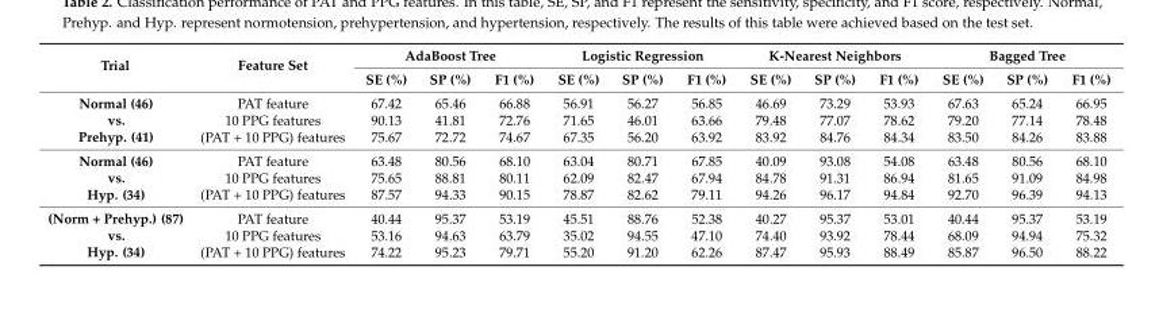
<table><thead><tr><td rowspan="2">Trial</td><td rowspan="2">Feature Set</td><td colspan="3">AdaBoost Tree</td><td colspan="3">Logistic Regression</td><td colspan="3">K-Nearest Neighbors</td><td colspan="3">Bagged Tree</td></tr><tr><td>SE (%)</td><td>SP (%)</td><td>F1 (%)</td><td>SE (%)</td><td>SP (%)</td><td>F1 (%)</td><td>SE (%)</td><td>SP (%)</td><td>F1 (%)</td><td>SE (%)</td><td>SP (%)</td><td>F1 (%)</td></tr></thead><tbody><tr><td rowspan="3">Normal (46) vs. Prehyp. (41)</td><td>PAT feature</td><td>67.42</td><td>65.46</td><td>66.88</td><td>56.91</td><td>56.27</td><td>56.85</td><td>46.69</td><td>73.29</td><td>53.93</td><td>67.63</td><td>65.24</td><td>66.95</td></tr><tr><td>10 PPG features</td><td>90.13</td><td>41.81</td><td>72.76</td><td>71.65</td><td>46.01</td><td>63.66</td><td>79.48</td><td>77.07</td><td>78.62</td><td>79.20</td><td>77.14</td><td>78.48</td></tr><tr><td>(PAT + 10 PPG) features</td><td>75.67</td><td>72.72</td><td>74.67</td><td>67.35</td><td>56.20</td><td>63.92</td><td>83.92</td><td>84.76</td><td>84.34</td><td>83.50</td><td>84.26</td><td>83.88</td></tr><tr><td rowspan="3">Normal (46) vs. Hyp. (34)</td><td>PAT feature</td><td>63.48</td><td>80.56</td><td>68.10</td><td>63.04</td><td>80.71</td><td>67.85</td><td>40.09</td><td>93.08</td><td>54.08</td><td>63.48</td><td>80.56</td><td>68.10</td></tr><tr><td>10 PPG features</td><td>75.65</td><td>88.81</td><td>80.11</td><td>62.09</td><td>82.47</td><td>67.94</td><td>84.78</td><td>91.31</td><td>86.94</td><td>81.65</td><td>91.09</td><td>84.98</td></tr><tr><td>(PAT + 10 PPG) features</td><td>87.57</td><td>94.33</td><td>90.15</td><td>78.87</td><td>82.62</td><td>79.11</td><td>94.26</td><td>96.17</td><td>94.84</td><td>92.70</td><td>96.39</td><td>94.13</td></tr><tr><td rowspan="3">(Norm + Prehyp.) (87) vs. Hyp. (34)</td><td>PAT feature</td><td>40.44</td><td>95.37</td><td>53.19</td><td>45.51</td><td>88.76</td><td>52.38</td><td>40.27</td><td>95.37</td><td>53.01</td><td>40.44</td><td>95.37</td><td>53.19</td></tr><tr><td>10 PPG features</td><td>53.16</td><td>94.63</td><td>63.79</td><td>35.02</td><td>94.55</td><td>47.10</td><td>74.40</td><td>93.92</td><td>78.44</td><td>68.09</td><td>94.94</td><td>75.32</td></tr><tr><td>(PAT + 10 PPG) features</td><td>74.22</td><td>95.23</td><td>79.71</td><td>55.20</td><td>91.20</td><td>62.26</td><td>87.47</td><td>95.93</td><td>88.49</td><td>85.87</td><td>96.50</td><td>88.22</td></tr></tbody></table>